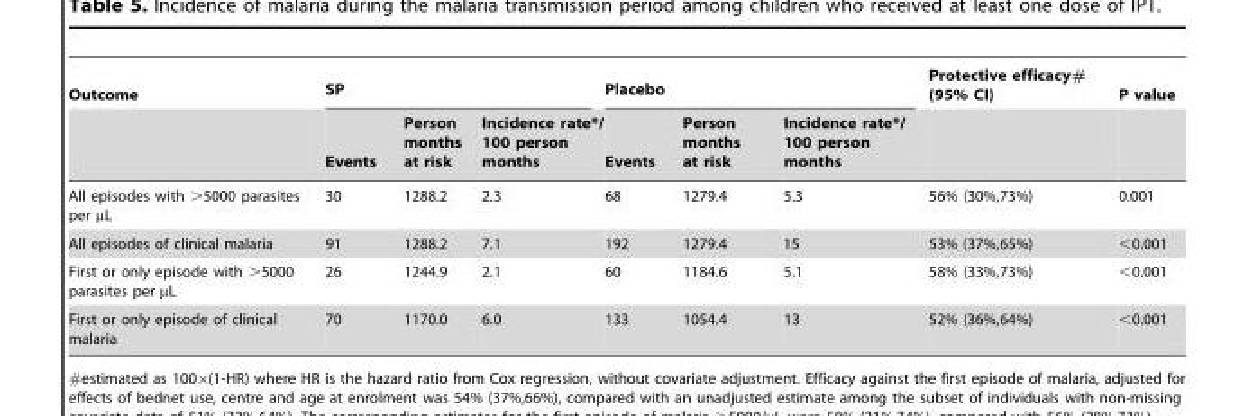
<table><thead><tr><td rowspan="2">Outcome</td><td colspan="3">SP</td><td colspan="3">Placebo</td><td rowspan="2">Protective efficacy# (95% CI)</td><td rowspan="2">P value</td></tr><tr><td>Events</td><td>Person months at risk</td><td>Incidence rate*/ 100 person months</td><td>Events</td><td>Person months at risk</td><td>Incidence rate*/ 100 person months</td></tr></thead><tbody><tr><td>All episodes with &gt;5000 parasites per µL</td><td>30</td><td>1288.2</td><td>2.3</td><td>68</td><td>1279.4</td><td>5.3</td><td>56% (30%,73%)</td><td>0.001</td></tr><tr><td>All episodes of clinical malaria</td><td>91</td><td>1288.2</td><td>7.1</td><td>192</td><td>1279.4</td><td>15</td><td>53% (37%,65%)</td><td>&lt;0.001</td></tr><tr><td>First or only episode with &gt;5000 parasites per µL</td><td>26</td><td>1244.9</td><td>2.1</td><td>60</td><td>1184.6</td><td>5.1</td><td>58% (33%,73%)</td><td>&lt;0.001</td></tr><tr><td>First or only episode of clinical malaria</td><td>70</td><td>1170.0</td><td>6.0</td><td>133</td><td>1054.4</td><td>13</td><td>52% (36%,64%)</td><td>&lt;0.001</td></tr></tbody></table>